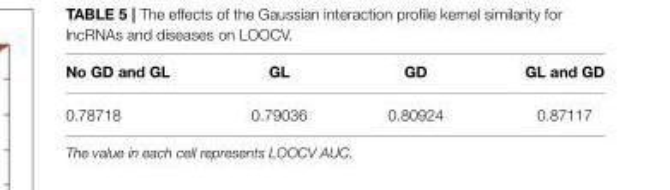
<table><thead><tr><td>No GD and GL</td><td>GL</td><td>GD</td><td>GL and GD</td></tr></thead><tbody><tr><td>0.78718</td><td>0.79036</td><td>0.80924</td><td>0.87117</td></tr></tbody></table>